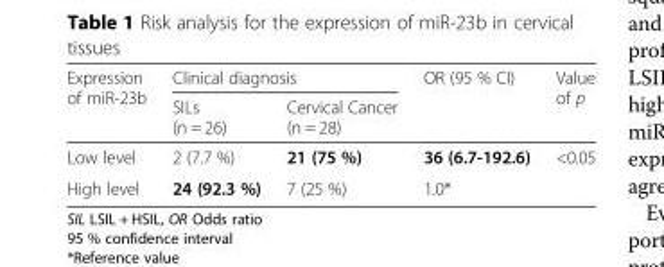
<table><thead><tr><td rowspan="2">Expression of miR-23b</td><td colspan="2">Clinical diagnosis</td><td rowspan="2">OR (95 % CI)</td><td rowspan="2">Value of p</td></tr><tr><td>SILs (n = 26)</td><td>Cervical Cancer (n = 28)</td></tr></thead><tbody><tr><td>Low level</td><td>2 (7.7 %)</td><td>21 (75 %)</td><td>36 (6.7-192.6)</td><td>&lt;0.05</td></tr><tr><td>High level</td><td>24 (92.3 %)</td><td>7 (25 %)</td><td>1.0*</td><td></td></tr></tbody></table>